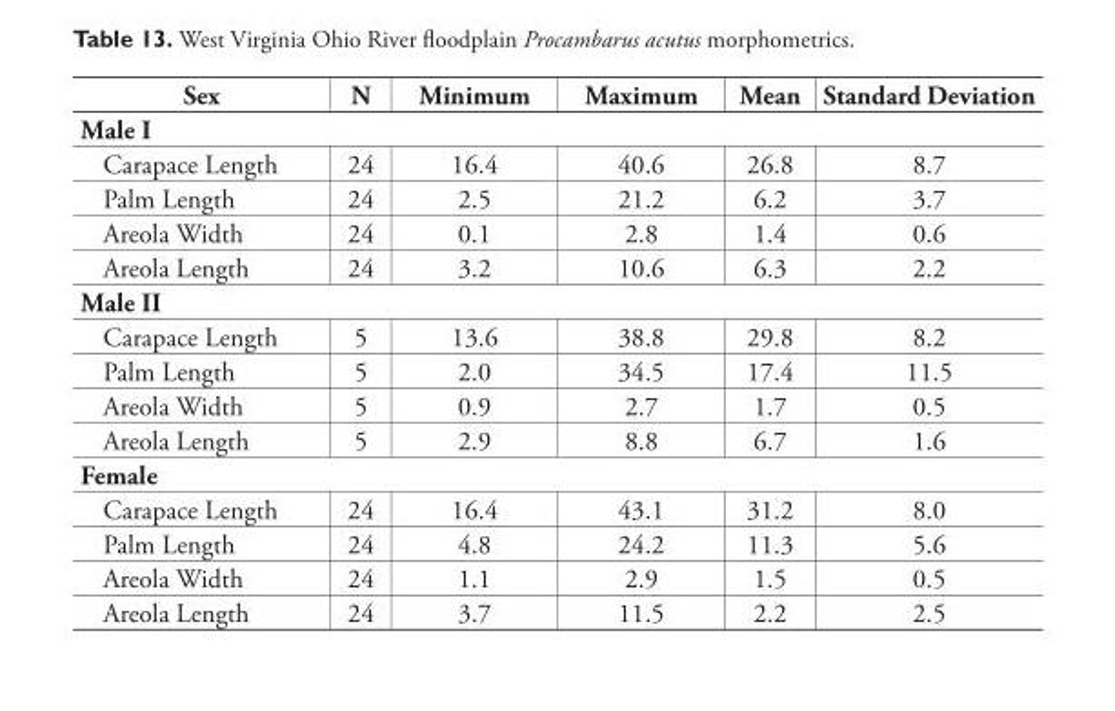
<table><thead><tr><td>Sex</td><td>N</td><td>Minimum</td><td>Maximum</td><td>Mean</td><td>Standard Deviation</td></tr></thead><tbody><tr><td colspan="6">Male I</td></tr><tr><td>Carapace Length</td><td>24</td><td>16.4</td><td>40.6</td><td>26.8</td><td>8.7</td></tr><tr><td>Palm Length</td><td>24</td><td>2.5</td><td>21.2</td><td>6.2</td><td>3.7</td></tr><tr><td>Areola Width</td><td>24</td><td>0.1</td><td>2.8</td><td>1.4</td><td>0.6</td></tr><tr><td>Areola Length</td><td>24</td><td>3.2</td><td>10.6</td><td>6.3</td><td>2.2</td></tr><tr><td colspan="6">Male II</td></tr><tr><td>Carapace Length</td><td>5</td><td>13.6</td><td>38.8</td><td>29.8</td><td>8.2</td></tr><tr><td>Palm Length</td><td>5</td><td>2.0</td><td>34.5</td><td>17.4</td><td>11.5</td></tr><tr><td>Areola Width</td><td>5</td><td>0.9</td><td>2.7</td><td>1.7</td><td>0.5</td></tr><tr><td>Areola Length</td><td>5</td><td>2.9</td><td>8.8</td><td>6.7</td><td>1.6</td></tr><tr><td colspan="6">Female</td></tr><tr><td>Carapace Length</td><td>24</td><td>16.4</td><td>43.1</td><td>31.2</td><td>8.0</td></tr><tr><td>Palm Length</td><td>24</td><td>4.8</td><td>24.2</td><td>11.3</td><td>5.6</td></tr><tr><td>Areola Width</td><td>24</td><td>1.1</td><td>2.9</td><td>1.5</td><td>0.5</td></tr><tr><td>Areola Length</td><td>24</td><td>3.7</td><td>11.5</td><td>2.2</td><td>2.5</td></tr></tbody></table>